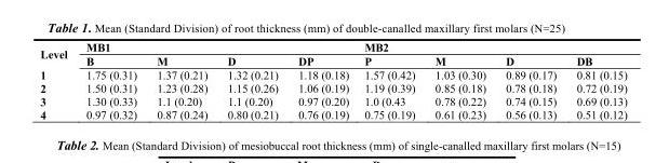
<table><thead><tr><td rowspan="2">Level</td><td colspan="4">MB1</td><td colspan="4">MB2</td></tr><tr><td>B</td><td>M</td><td>D</td><td>DP</td><td>P</td><td>M</td><td>D</td><td>DB</td></tr></thead><tbody><tr><td>1</td><td>1.75 (0.31)</td><td>1.37 (0.21)</td><td>1.32 (0.21)</td><td>1.18 (0.18)</td><td>1.57 (0.42)</td><td>1.03 (0.30)</td><td>0.89 (0.17)</td><td>0.81 (0.15)</td></tr><tr><td>2</td><td>1.50 (0.31)</td><td>1.23 (0.28)</td><td>1.15 (0.26)</td><td>1.06 (0.19)</td><td>1.19 (0.39)</td><td>0.85 (0.18)</td><td>0.78 (0.18)</td><td>0.72 (0.19)</td></tr><tr><td>3</td><td>1.30 (0.33)</td><td>1.1 (0.20)</td><td>1.1 (0.20)</td><td>0.97 (0.20)</td><td>1.0 (0.43</td><td>0.78 (0.22)</td><td>0.74 (0.15)</td><td>0.69 (0.13)</td></tr><tr><td>4</td><td>0.97 (0.32)</td><td>0.87 (0.24)</td><td>0.80 (0.21)</td><td>0.76 (0.19)</td><td>0.75 (0.19)</td><td>0.61 (0.23)</td><td>0.56 (0.13)</td><td>0.51 (0.12)</td></tr></tbody></table>